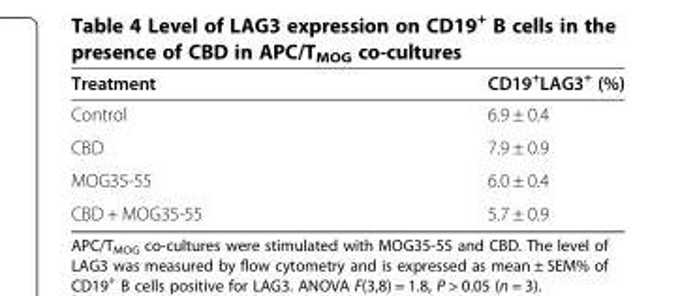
<table><thead><tr><td>Treatment</td><td>CD19<sup>+</sup>LAG3<sup>+</sup> (%)</td></tr></thead><tbody><tr><td>Control</td><td>6.9 ± 0.4</td></tr><tr><td>CBD</td><td>7.9 ± 0.9</td></tr><tr><td>MOG35-55</td><td>6.0 ± 0.4</td></tr><tr><td>CBD + MOG35-55</td><td>5.7 ± 0.9</td></tr></tbody></table>